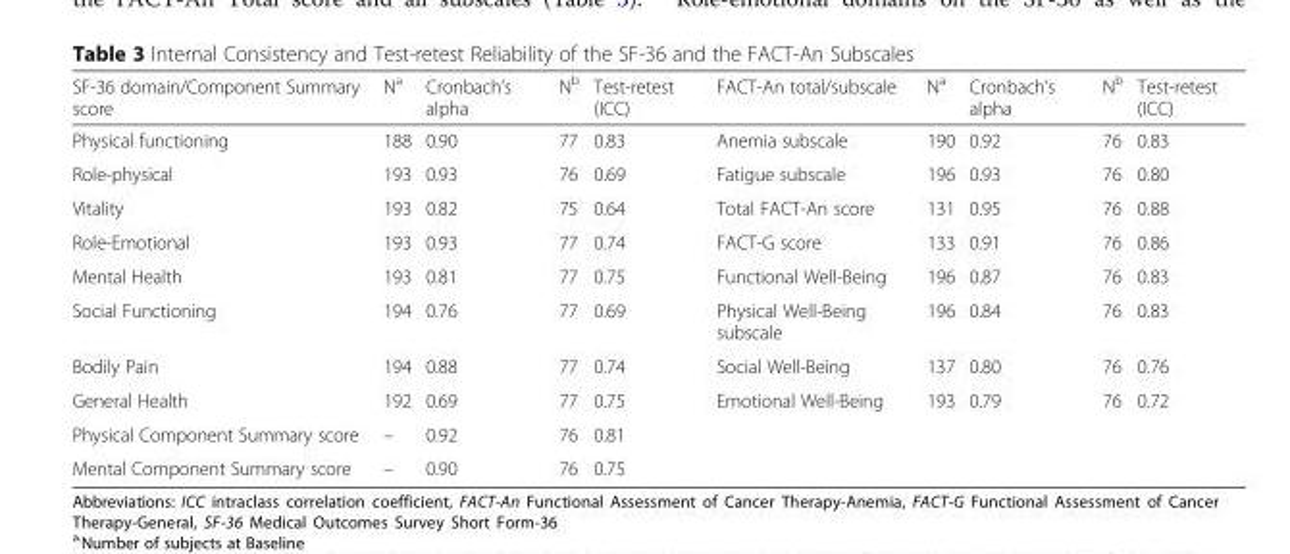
<table><thead><tr><td>SF-36 domain/Component Summary score</td><td>N<sup>a</sup></td><td>Cronbach’s alpha</td><td>N<sup>b</sup></td><td>Test-retest (ICC)</td><td>FACT-An total/subscale</td><td>N<sup>a</sup></td><td>Cronbach’s alpha</td><td>N<sup>b</sup></td><td>Test-retest (ICC)</td></tr></thead><tbody><tr><td>Physical functioning</td><td>188</td><td>0.90</td><td>77</td><td>0.83</td><td>Anemia subscale</td><td>190</td><td>0.92</td><td>76</td><td>0.83</td></tr><tr><td>Role-physical</td><td>193</td><td>0.93</td><td>76</td><td>0.69</td><td>Fatigue subscale</td><td>196</td><td>0.93</td><td>76</td><td>0.80</td></tr><tr><td>Vitality</td><td>193</td><td>0.82</td><td>75</td><td>0.64</td><td>Total FACT-An score</td><td>131</td><td>0.95</td><td>76</td><td>0.88</td></tr><tr><td>Role-Emotional</td><td>193</td><td>0.93</td><td>77</td><td>0.74</td><td>FACT-G score</td><td>133</td><td>0.91</td><td>76</td><td>0.86</td></tr><tr><td>Mental Health</td><td>193</td><td>0.81</td><td>77</td><td>0.75</td><td>Functional Well-Being</td><td>196</td><td>0.87</td><td>76</td><td>0.83</td></tr><tr><td>Social Functioning</td><td>194</td><td>0.76</td><td>77</td><td>0.69</td><td>Physical Well-Being subscale</td><td>196</td><td>0.84</td><td>76</td><td>0.83</td></tr><tr><td>Bodily Pain</td><td>194</td><td>0.88</td><td>77</td><td>0.74</td><td>Social Well-Being</td><td>137</td><td>0.80</td><td>76</td><td>0.76</td></tr><tr><td>General Health</td><td>192</td><td>0.69</td><td>77</td><td>0.75</td><td>Emotional Well-Being</td><td>193</td><td>0.79</td><td>76</td><td>0.72</td></tr><tr><td>Physical Component Summary score</td><td>–</td><td>0.92</td><td>76</td><td>0.81</td><td></td><td></td><td></td><td></td><td></td></tr><tr><td>Mental Component Summary score</td><td>–</td><td>0.90</td><td>76</td><td>0.75</td><td></td><td></td><td></td><td></td><td></td></tr></tbody></table>